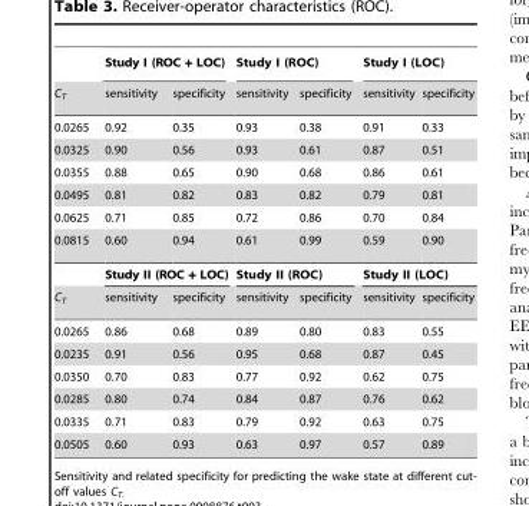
<table><thead><tr><td rowspan="2">C<sub>T</sub></td><td colspan="2">Study I (ROC + LOC)</td><td colspan="2">Study I (ROC)</td><td colspan="2">Study I (LOC)</td></tr><tr><td>sensitivity</td><td>specificity</td><td>sensitivity</td><td>specificity</td><td>sensitivity</td><td>specificity</td></tr></thead><tbody><tr><td>0.0265</td><td>0.92</td><td>0.35</td><td>0.93</td><td>0.38</td><td>0.91</td><td>0.33</td></tr><tr><td>0.0325</td><td>0.90</td><td>0.56</td><td>0.93</td><td>0.61</td><td>0.87</td><td>0.51</td></tr><tr><td>0.0355</td><td>0.88</td><td>0.65</td><td>0.90</td><td>0.68</td><td>0.86</td><td>0.61</td></tr><tr><td>0.0495</td><td>0.81</td><td>0.82</td><td>0.83</td><td>0.82</td><td>0.79</td><td>0.81</td></tr><tr><td>0.0625</td><td>0.71</td><td>0.85</td><td>0.72</td><td>0.86</td><td>0.70</td><td>0.84</td></tr><tr><td rowspan="2">0.0815</td><td>0.60</td><td>0.94</td><td>0.61</td><td>0.99</td><td>0.59</td><td>0.90</td></tr><tr><td colspan="2">Study II (ROC + LOC)</td><td colspan="2">Study II (ROC)</td><td colspan="2">Study II (LOC)</td></tr><tr><td>C<sub>T</sub></td><td>sensitivity</td><td>specificity</td><td>sensitivity</td><td>specificity</td><td>sensitivity</td><td>specificity</td></tr><tr><td>0.0265</td><td>0.86</td><td>0.68</td><td>0.89</td><td>0.80</td><td>0.83</td><td>0.55</td></tr><tr><td>0.0235</td><td>0.91</td><td>0.56</td><td>0.95</td><td>0.68</td><td>0.87</td><td>0.45</td></tr><tr><td>0.0350</td><td>0.70</td><td>0.83</td><td>0.77</td><td>0.92</td><td>0.62</td><td>0.75</td></tr><tr><td>0.0285</td><td>0.80</td><td>0.74</td><td>0.84</td><td>0.87</td><td>0.76</td><td>0.62</td></tr><tr><td>0.0335</td><td>0.71</td><td>0.83</td><td>0.79</td><td>0.92</td><td>0.63</td><td>0.75</td></tr><tr><td>0.0505</td><td>0.60</td><td>0.93</td><td>0.63</td><td>0.97</td><td>0.57</td><td>0.89</td></tr></tbody></table>